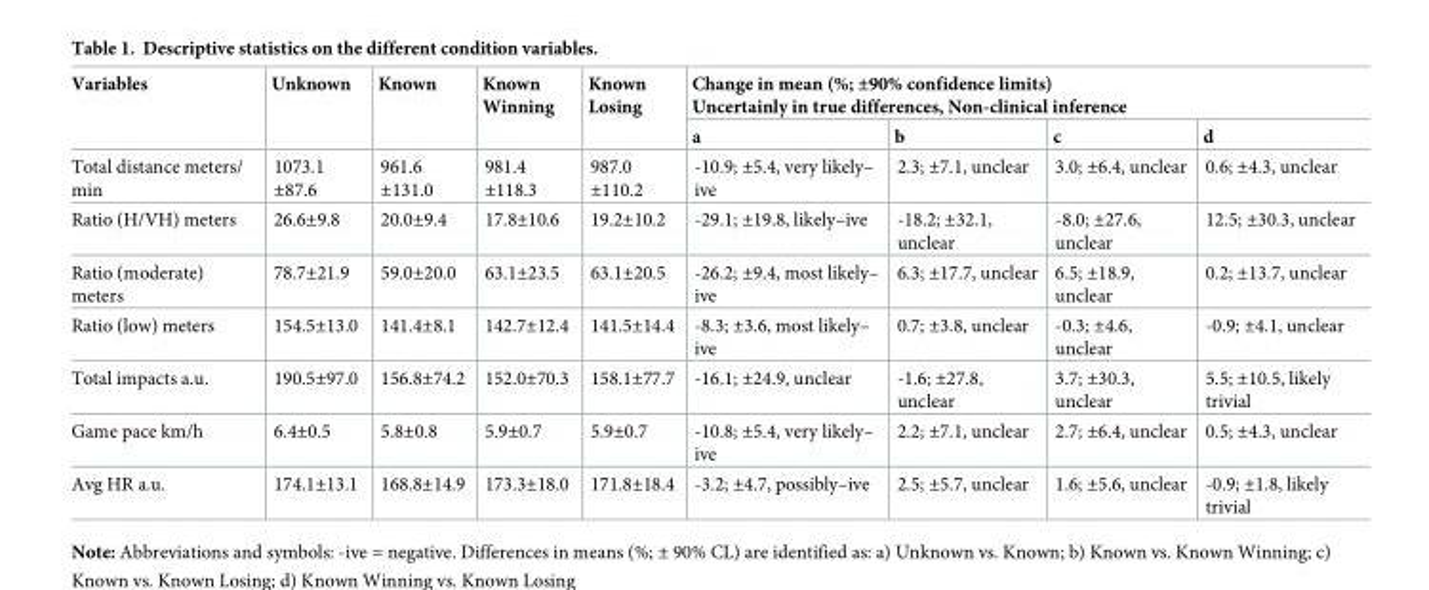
<table><thead><tr><td rowspan="2">Variables</td><td rowspan="2">Unknown</td><td rowspan="2">Known</td><td rowspan="2">Known Winning</td><td rowspan="2">Known Losing</td><td colspan="4">Change in mean (%; ±90% confidence limits) Uncertainly in true differences, Non-clinical inference</td></tr><tr><td>a</td><td>b</td><td>c</td><td>d</td></tr></thead><tbody><tr><td>Total distance meters/ min</td><td>1073.1 ±87.6</td><td>961.6 ±131.0</td><td>981.4 ±118.3</td><td>987.0 ±110.2</td><td>-10.9; ±5.4, very likely– ive</td><td>2.3; ±7.1, unclear</td><td>3.0; ±6.4, unclear</td><td>0.6; ±4.3, unclear</td></tr><tr><td>Ratio (H/VH) meters</td><td>26.6±9.8</td><td>20.0±9.4</td><td>17.8±10.6</td><td>19.2±10.2</td><td>-29.1; ±19.8, likely–ive</td><td>-18.2; ±32.1, unclear</td><td>-8.0; ±27.6, unclear</td><td>12.5; ±30.3, unclear</td></tr><tr><td>Ratio (moderate) meters</td><td>78.7±21.9</td><td>59.0±20.0</td><td>63.1±23.5</td><td>63.1±20.5</td><td>-26.2; ±9.4, most likely– ive</td><td>6.3; ±17.7, unclear</td><td>6.5; ±18.9, unclear</td><td>0.2; ±13.7, unclear</td></tr><tr><td>Ratio (low) meters</td><td>154.5±13.0</td><td>141.4±8.1</td><td>142.7±12.4</td><td>141.5±14.4</td><td>-8.3; ±3.6, most likely– ive</td><td>0.7; ±3.8, unclear</td><td>-0.3; ±4.6, unclear</td><td>-0.9; ±4.1, unclear</td></tr><tr><td>Total impacts a.u.</td><td>190.5±97.0</td><td>156.8±74.2</td><td>152.0±70.3</td><td>158.1±77.7</td><td>-16.1; ±24.9, unclear</td><td>-1.6; ±27.8, unclear</td><td>3.7; ±30.3, unclear</td><td>5.5; ±10.5, likely trivial</td></tr><tr><td>Game pace km/h</td><td>6.4±0.5</td><td>5.8±0.8</td><td>5.9±0.7</td><td>5.9±0.7</td><td>-10.8; ±5.4, very likely– ive</td><td>2.2; ±7.1, unclear</td><td>2.7; ±6.4, unclear</td><td>0.5; ±4.3, unclear</td></tr><tr><td>Avg HR a.u.</td><td>174.1±13.1</td><td>168.8±14.9</td><td>173.3±18.0</td><td>171.8±18.4</td><td>-3.2; ±4.7, possibly–ive</td><td>2.5; ±5.7, unclear</td><td>1.6; ±5.6, unclear</td><td>-0.9; ±1.8, likely trivial</td></tr></tbody></table>